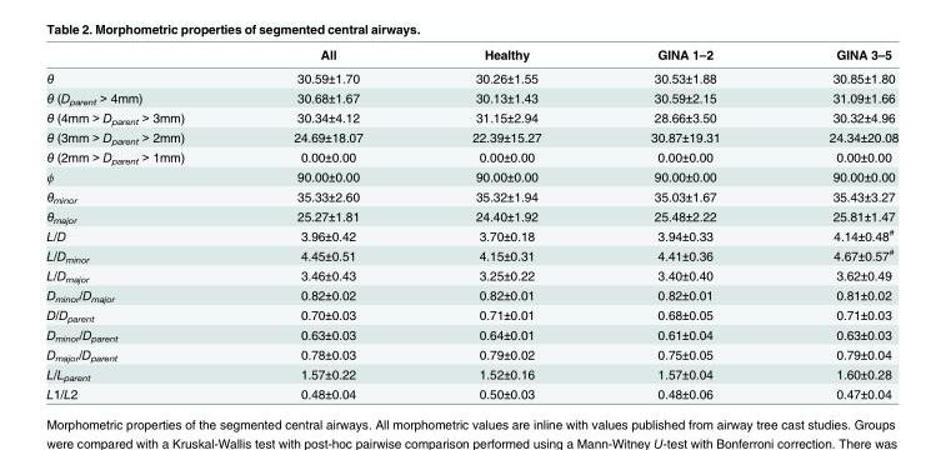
<table><thead><tr><td></td><td>All</td><td>Healthy</td><td>GINA 1–2</td><td>GINA 3–5</td></tr></thead><tbody><tr><td>θ</td><td>30.59±1.70</td><td>30.26±1.55</td><td>30.53±1.88</td><td>30.85±1.80</td></tr><tr><td>θ (D<sub>parent</sub> &gt; 4mm)</td><td>30.68±1.67</td><td>30.13±1.43</td><td>30.59±2.15</td><td>31.09±1.66</td></tr><tr><td>θ (4mm &gt; D<sub>parent</sub> &gt; 3mm)</td><td>30.34±4.12</td><td>31.15±2.94</td><td>28.66±3.50</td><td>30.32±4.96</td></tr><tr><td>θ (3mm &gt; D<sub>parent</sub> &gt; 2mm)</td><td>24.69±18.07</td><td>22.39±15.27</td><td>30.87±19.31</td><td>24.34±20.08</td></tr><tr><td>θ (2mm &gt; D<sub>parent</sub> &gt; 1mm)</td><td>0.00±0.00</td><td>0.00±0.00</td><td>0.00±0.00</td><td>0.00±0.00</td></tr><tr><td>ϕ</td><td>90.00±0.00</td><td>90.00±0.00</td><td>90.00±0.00</td><td>90.00±0.00</td></tr><tr><td>θ<sub>minor</sub></td><td>35.33±2.60</td><td>35.32±1.94</td><td>35.03±1.67</td><td>35.43±3.27</td></tr><tr><td>θ<sub>major</sub></td><td>25.27±1.81</td><td>24.40±1.92</td><td>25.48±2.22</td><td>25.81±1.47</td></tr><tr><td>L/D</td><td>3.96±0.42</td><td>3.70±0.18</td><td>3.94±0.33</td><td>4.14±0.48<sup>#</sup></td></tr><tr><td>L/D<sub>minor</sub></td><td>4.45±0.51</td><td>4.15±0.31</td><td>4.41±0.36</td><td>4.67±0.57<sup>#</sup></td></tr><tr><td>L/D<sub>major</sub></td><td>3.46±0.43</td><td>3.25±0.22</td><td>3.40±0.40</td><td>3.62±0.49</td></tr><tr><td>D<sub>minor</sub>/D<sub>major</sub></td><td>0.82±0.02</td><td>0.82±0.01</td><td>0.82±0.01</td><td>0.81±0.02</td></tr><tr><td>D/D<sub>parent</sub></td><td>0.70±0.03</td><td>0.71±0.01</td><td>0.68±0.05</td><td>0.71±0.03</td></tr><tr><td>D<sub>minor</sub>/D<sub>parent</sub></td><td>0.63±0.03</td><td>0.64±0.01</td><td>0.61±0.04</td><td>0.63±0.03</td></tr><tr><td>D<sub>major</sub>/D<sub>parent</sub></td><td>0.78±0.03</td><td>0.79±0.02</td><td>0.75±0.05</td><td>0.79±0.04</td></tr><tr><td>L/L<sub>parent</sub></td><td>1.57±0.22</td><td>1.52±0.16</td><td>1.57±0.04</td><td>1.60±0.28</td></tr><tr><td>L1/L2</td><td>0.48±0.04</td><td>0.50±0.03</td><td>0.48±0.06</td><td>0.47±0.04</td></tr></tbody></table>